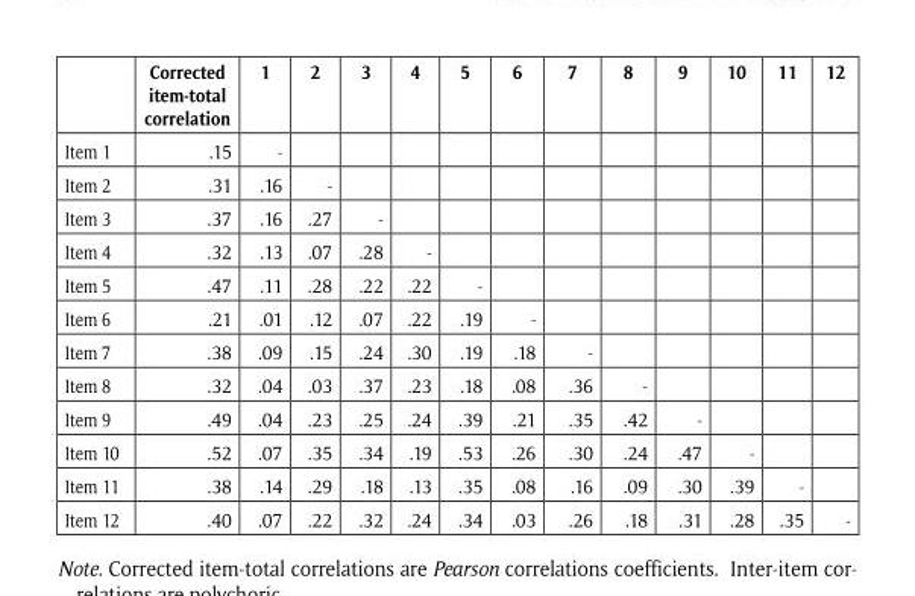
<table><thead><tr><td></td><td>Corrected item-total correlation</td><td>1</td><td>2</td><td>3</td><td>4</td><td>5</td><td>6</td><td>7</td><td>8</td><td>9</td><td>10</td><td>11</td><td>12</td></tr></thead><tbody><tr><td>Item 1</td><td>.15</td><td>-</td><td></td><td></td><td></td><td></td><td></td><td></td><td></td><td></td><td></td><td></td><td></td></tr><tr><td>Item 2</td><td>.31</td><td>.16</td><td>-</td><td></td><td></td><td></td><td></td><td></td><td></td><td></td><td></td><td></td><td></td></tr><tr><td>Item 3</td><td>.37</td><td>.16</td><td>.27</td><td>-</td><td></td><td></td><td></td><td></td><td></td><td></td><td></td><td></td><td></td></tr><tr><td>Item 4</td><td>.32</td><td>.13</td><td>.07</td><td>.28</td><td>-</td><td></td><td></td><td></td><td></td><td></td><td></td><td></td><td></td></tr><tr><td>Item 5</td><td>.47</td><td>.11</td><td>.28</td><td>.22</td><td>.22</td><td>-</td><td></td><td></td><td></td><td></td><td></td><td></td><td></td></tr><tr><td>Item 6</td><td>.21</td><td>.01</td><td>.12</td><td>.07</td><td>.22</td><td>.19</td><td>-</td><td></td><td></td><td></td><td></td><td></td><td></td></tr><tr><td>Item 7</td><td>.38</td><td>.09</td><td>.15</td><td>.24</td><td>.30</td><td>.19</td><td>.18</td><td>-</td><td></td><td></td><td></td><td></td><td></td></tr><tr><td>Item 8</td><td>.32</td><td>.04</td><td>.03</td><td>.37</td><td>.23</td><td>.18</td><td>.08</td><td>.36</td><td>-</td><td></td><td></td><td></td><td></td></tr><tr><td>Item 9</td><td>.49</td><td>.04</td><td>.23</td><td>.25</td><td>.24</td><td>.39</td><td>.21</td><td>.35</td><td>.42</td><td>-</td><td></td><td></td><td></td></tr><tr><td>Item 10</td><td>.52</td><td>.07</td><td>.35</td><td>.34</td><td>.19</td><td>.53</td><td>.26</td><td>.30</td><td>.24</td><td>.47</td><td>-</td><td></td><td></td></tr><tr><td>Item 11</td><td>.38</td><td>.14</td><td>.29</td><td>.18</td><td>.13</td><td>.35</td><td>.08</td><td>.16</td><td>.09</td><td>.30</td><td>.39</td><td>-</td><td></td></tr><tr><td>Item 12</td><td>.40</td><td>.07</td><td>.22</td><td>.32</td><td>.24</td><td>.34</td><td>.03</td><td>.26</td><td>.18</td><td>.31</td><td>.28</td><td>.35</td><td>-</td></tr></tbody></table>